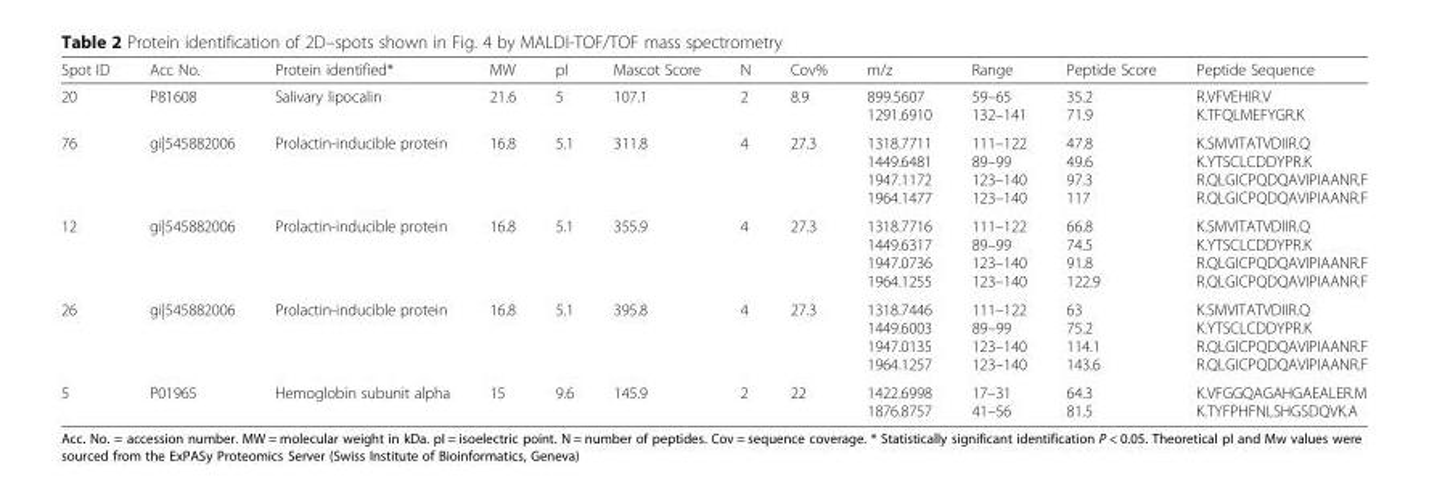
<table><thead><tr><td>Spot ID</td><td>Acc No.</td><td>Protein identified*</td><td>MW</td><td>pI</td><td>Mascot Score</td><td>N</td><td>Cov%</td><td>m/z</td><td>Range</td><td>Peptide Score</td><td>Peptide Sequence</td></tr></thead><tbody><tr><td>20</td><td>P81608</td><td>Salivary lipocalin</td><td>21.6</td><td>5</td><td>107.1</td><td>2</td><td>8.9</td><td>899.5607 1291.6910</td><td>59–65 132–141</td><td>35.2 71.9</td><td>R.VFVEHIR.V K.TFQLMEFYGR.K</td></tr><tr><td>76</td><td>gi|545882006</td><td>Prolactin-inducible protein</td><td>16.8</td><td>5.1</td><td>311.8</td><td>4</td><td>27.3</td><td>1318.7711 1449.6481 1947.1172 1964.1477</td><td>111–122 89–99 123–140 123–140</td><td>47.8 49.6 97.3 117</td><td>K.SMVITATVDIIR.Q K.YTSCLCDDYPR.K R.QLGICPQDQAVIPIAANR.F R.QLGICPQDQAVIPIAANR.F</td></tr><tr><td>12</td><td>gi|545882006</td><td>Prolactin-inducible protein</td><td>16.8</td><td>5.1</td><td>355.9</td><td>4</td><td>27.3</td><td>1318.7716 1449.6317 1947.0736 1964.1255</td><td>111–122 89–99 123–140 123–140</td><td>66.8 74.5 91.8 122.9</td><td>K.SMVITATVDIIR.Q K.YTSCLCDDYPR.K R.QLGICPQDQAVIPIAANR.F R.QLGICPQDQAVIPIAANR.F</td></tr><tr><td>26</td><td>gi|545882006</td><td>Prolactin-inducible protein</td><td>16.8</td><td>5.1</td><td>395.8</td><td>4</td><td>27.3</td><td>1318.7446 1449.6003 1947.0135 1964.1257</td><td>111–122 89–99 123–140 123–140</td><td>63 75.2 114.1 143.6</td><td>K.SMVITATVDIIR.Q K.YTSCLCDDYPR.K R.QLGICPQDQAVIPIAANR.F R.QLGICPQDQAVIPIAANR.F</td></tr><tr><td>5</td><td>P01965</td><td>Hemoglobin subunit alpha</td><td>15</td><td>9.6</td><td>145.9</td><td>2</td><td>22</td><td>1422.6998 1876.8757</td><td>17–31 41–56</td><td>64.3 81.5</td><td>K.VFGGQAGAHGAEALER.M K.TYFPHFNLSHGSDQVK.A</td></tr></tbody></table>